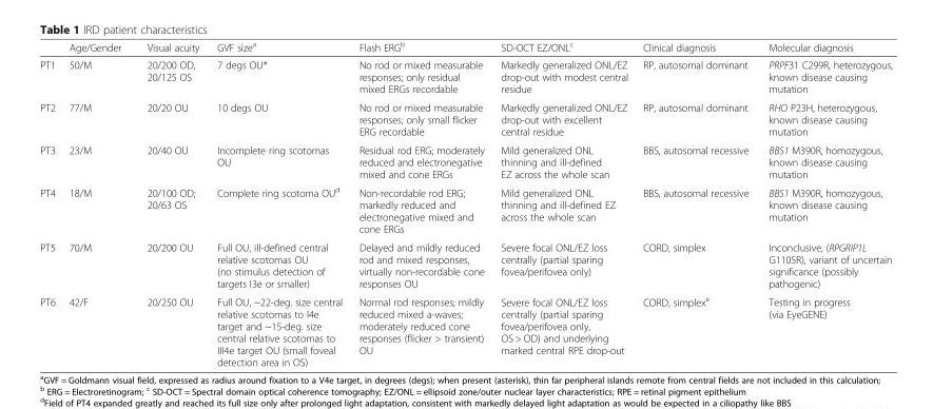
<table><thead><tr><td></td><td>Age/Gender</td><td>Visual acuity</td><td>GVF size<sup>a</sup></td><td>Flash ERG<sup>b</sup></td><td>SD-OCT EZ/ONL<sup>c</sup></td><td>Clinical diagnosis</td><td>Molecular diagnosis</td></tr></thead><tbody><tr><td>PT1</td><td>50/M</td><td>20/200 OD, 20/125 OS</td><td>7 degs OU*</td><td>No rod or mixed measurable responses; only residual mixed ERGs recordable</td><td>Markedly generalized ONL/EZ drop-out with modest central residue</td><td>RP, autosomal dominant</td><td>PRPF31 C299R, heterozygous, known disease causing mutation</td></tr><tr><td>PT2</td><td>77/M</td><td>20/20 OU</td><td>10 degs OU</td><td>No rod or mixed measurable responses; only small flicker ERG recordable</td><td>Markedly generalized ONL/EZ drop-out with excellent central residue</td><td>RP, autosomal dominant</td><td>RHO P23H, heterozygous, known disease causing mutation</td></tr><tr><td>PT3</td><td>23/M</td><td>20/40 OU</td><td>Incomplete ring scotomas OU</td><td>Residual rod ERG; moderately reduced and electronegative mixed and cone ERGs</td><td>Mild generalized ONL thinning and ill-defined EZ across the whole scan</td><td>BBS, autosomal recessive</td><td>BBS1 M390R, homozygous, known disease causing mutation</td></tr><tr><td>PT4</td><td>18/M</td><td>20/100 OD; 20/63 OS</td><td>Complete ring scotoma OU<sup>d</sup></td><td>Non-recordable rod ERG; markedly reduced and electronegative mixed and cone ERGs</td><td>Mild generalized ONL thinning and ill-defined EZ across the whole scan</td><td>BBS, autosomal recessive</td><td>BBS1 M390R, homozygous, known disease causing mutation</td></tr><tr><td>PT5</td><td>70/M</td><td>20/200 OU</td><td>Full OU, ill-defined central relative scotomas OU (no stimulus detection of targets I3e or smaller)</td><td>Delayed and mildly reduced rod and mixed responses, virtually non-recordable cone responses OU</td><td>Severe focal ONL/EZ loss centrally (partial sparing fovea/perifovea only)</td><td>CORD, simplex</td><td>Inconclusive, (RPGRIP1L G1105R), variant of uncertain significance (possibly pathogenic)</td></tr><tr><td>PT6</td><td>42/F</td><td>20/250 OU</td><td>Full OU, ~22-deg. size central relative scotomas to I4e target and ~15-deg. size central relative scotomas to III4e target OU (small foveal detection area in OS)</td><td>Normal rod responses; mildly reduced mixed a-waves; moderately reduced cone responses (flicker &gt; transient) OU</td><td>Severe focal ONL/EZ loss centrally (partial sparing fovea/perifovea only, OS &gt; OD) and underlying marked central RPE drop-out</td><td>CORD, simplex<sup>e</sup></td><td>Testing in progress (via EyeGENE)</td></tr></tbody></table>